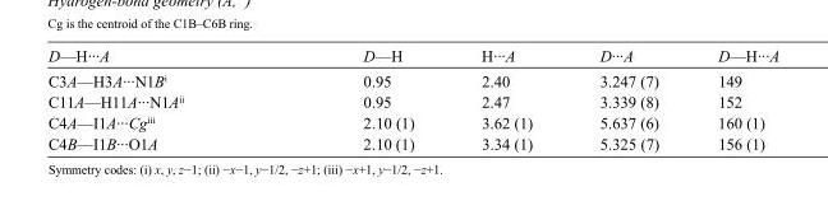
<table><tbody><tr><td>D—H···A</td><td>D—H</td><td>H···A</td><td>D···A</td><td>D—H···A</td></tr><tr><td>C3A—H3A···N1B<sup>i</sup></td><td>0.95</td><td>2.40</td><td>3.247 (7)</td><td>149</td></tr><tr><td>C11A—H11A···N1A<sup>ii</sup></td><td>0.95</td><td>2.47</td><td>3.339 (8)</td><td>152</td></tr><tr><td>C4A—I1A···Cg<sup>iii</sup></td><td>2.10 (1)</td><td>3.62 (1)</td><td>5.637 (6)</td><td>160 (1)</td></tr><tr><td>C4B—I1B···O1A</td><td>2.10 (1)</td><td>3.34 (1)</td><td>5.325 (7)</td><td>156 (1)</td></tr></tbody></table>